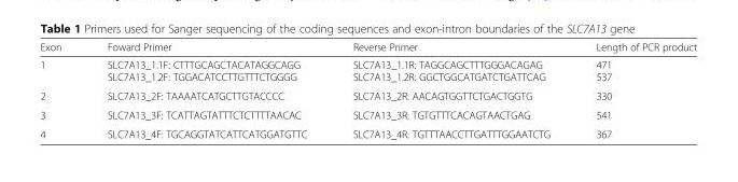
<table><thead><tr><td>Exon</td><td>Foward Primer</td><td>Reverse Primer</td><td>Length of PCR product</td></tr></thead><tbody><tr><td>1</td><td>SLC7A13_1.1F: CTTTGCAGCTACATAGGCAGG SLC7A13_1.2F: TGGACATCCTTGTTTCTGGGG</td><td>SLC7A13_1.1R: TAGGCAGCTTTGGGACAGAG SLC7A13_1.2R: GGCTGGCATGATCTGATTCAG</td><td>471 537</td></tr><tr><td>2</td><td>SLC7A13_2F: TAAAATCATGCTTGTACCCC</td><td>SLC7A13_2R: AACAGTGGTTCTGACTGGTG</td><td>330</td></tr><tr><td>3</td><td>SLC7A13_3F: TCATTAGTATTTCTCTTTTAACAC</td><td>SLC7A13_3R: TGTGTTTCACAGTAACTGAG</td><td>541</td></tr><tr><td>4</td><td>SLC7A13_4F: TGCAGGTATCATTCATGGATGTTC</td><td>SLC7A13_4R: TGTTTAACCTTGATTTGGAATCTG</td><td>367</td></tr></tbody></table>